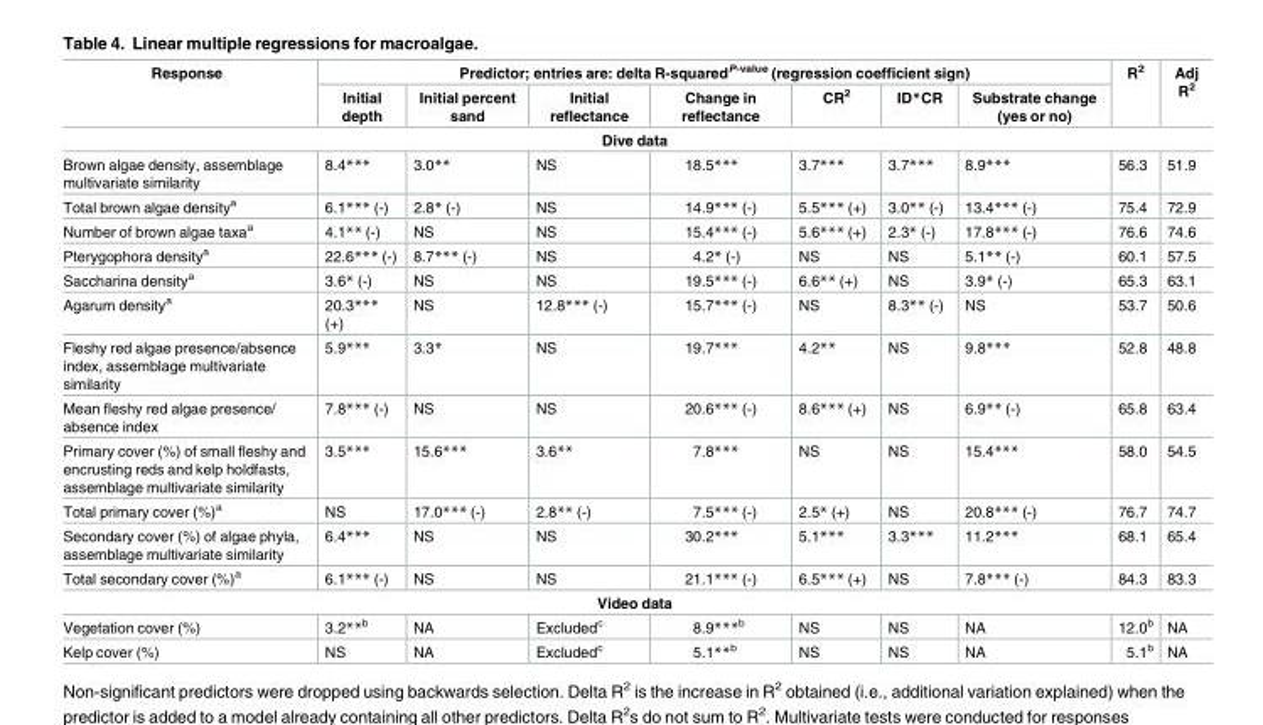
<table><thead><tr><td rowspan="2">Response</td><td colspan="7">Predictor; entries are: delta R-squared<sup>P-value</sup> (regression coefficient sign)</td><td rowspan="2">R<sup>2</sup></td><td rowspan="2">Adj R<sup>2</sup></td></tr><tr><td>Initial depth</td><td>Initial percent sand</td><td>Initial reflectance</td><td>Change in reflectance</td><td>CR<sup>2</sup></td><td>ID*CR</td><td>Substrate change (yes or no)</td></tr></thead><tbody><tr><td colspan="10">Dive data</td></tr><tr><td>Brown algae density, assemblage multivariate similarity</td><td>8.4***</td><td>3.0**</td><td>NS</td><td>18.5***</td><td>3.7***</td><td>3.7***</td><td>8.9***</td><td>56.3</td><td>51.9</td></tr><tr><td>Total brown algae density<sup>a</sup></td><td>6.1*** (-)</td><td>2.8* (-)</td><td>NS</td><td>14.9*** (-)</td><td>5.5*** (+)</td><td>3.0** (-)</td><td>13.4*** (-)</td><td>75.4</td><td>72.9</td></tr><tr><td>Number of brown algae taxa<sup>a</sup></td><td>4.1** (-)</td><td>NS</td><td>NS</td><td>15.4*** (-)</td><td>5.6*** (+)</td><td>2.3* (-)</td><td>17.8*** (-)</td><td>76.6</td><td>74.6</td></tr><tr><td>Pterygophora density<sup>a</sup></td><td>22.6*** (-)</td><td>8.7*** (-)</td><td>NS</td><td>4.2* (-)</td><td>NS</td><td>NS</td><td>5.1** (-)</td><td>60.1</td><td>57.5</td></tr><tr><td>Saccharina density<sup>a</sup></td><td>3.6* (-)</td><td>NS</td><td>NS</td><td>19.5*** (-)</td><td>6.6** (+)</td><td>NS</td><td>3.9* (-)</td><td>65.3</td><td>63.1</td></tr><tr><td>Agarum density<sup>a</sup></td><td>20.3*** (+)</td><td>NS</td><td>12.8*** (-)</td><td>15.7*** (-)</td><td>NS</td><td>8.3** (-)</td><td>NS</td><td>53.7</td><td>50.6</td></tr><tr><td>Fleshy red algae presence/absence index, assemblage multivariate similarity</td><td>5.9***</td><td>3.3*</td><td>NS</td><td>19.7***</td><td>4.2**</td><td>NS</td><td>9.8***</td><td>52.8</td><td>48.8</td></tr><tr><td>Mean fleshy red algae presence/ absence index</td><td>7.8*** (-)</td><td>NS</td><td>NS</td><td>20.6*** (-)</td><td>8.6*** (+)</td><td>NS</td><td>6.9** (-)</td><td>65.8</td><td>63.4</td></tr><tr><td>Primary cover (%) of small fleshy and encrusting reds and kelp holdfasts, assemblage multivariate similarity</td><td>3.5***</td><td>15.6***</td><td>3.6**</td><td>7.8***</td><td>NS</td><td>NS</td><td>15.4***</td><td>58.0</td><td>54.5</td></tr><tr><td>Total primary cover (%)<sup>a</sup></td><td>NS</td><td>17.0*** (-)</td><td>2.8** (-)</td><td>7.5*** (-)</td><td>2.5* (+)</td><td>NS</td><td>20.8*** (-)</td><td>76.7</td><td>74.7</td></tr><tr><td>Secondary cover (%) of algae phyla, assemblage multivariate similarity</td><td>6.4***</td><td>NS</td><td>NS</td><td>30.2***</td><td>5.1***</td><td>3.3***</td><td>11.2***</td><td>68.1</td><td>65.4</td></tr><tr><td>Total secondary cover (%)<sup>a</sup></td><td>6.1*** (-)</td><td>NS</td><td>NS</td><td>21.1*** (-)</td><td>6.5*** (+)</td><td>NS</td><td>7.8*** (-)</td><td>84.3</td><td>83.3</td></tr><tr><td colspan="10">Video data</td></tr><tr><td>Vegetation cover (%)</td><td>3.2**<sup>b</sup></td><td>NA</td><td>Excluded<sup>c</sup></td><td>8.9***<sup>b</sup></td><td>NS</td><td>NS</td><td>NA</td><td>12.0<sup>b</sup></td><td>NA</td></tr><tr><td>Kelp cover (%)</td><td>NS</td><td>NA</td><td>Excluded<sup>c</sup></td><td>5.1**<sup>b</sup></td><td>NS</td><td>NS</td><td>NA</td><td>5.1<sup>b</sup></td><td>NA</td></tr></tbody></table>